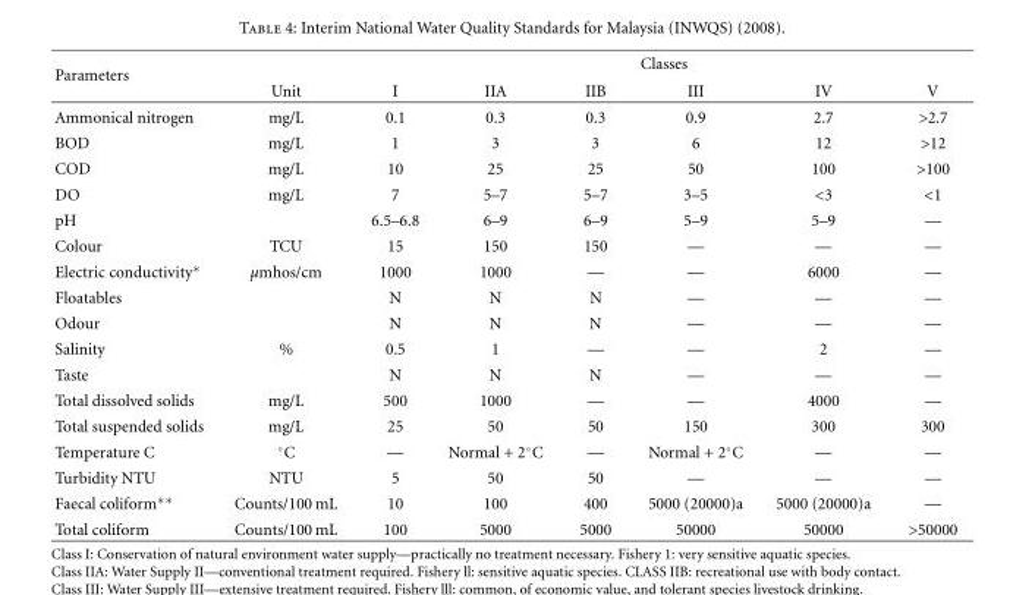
<table><thead><tr><td rowspan="2">Parameters</td><td rowspan="2">Unit</td><td colspan="6">Classes</td></tr><tr><td>I</td><td>IIA</td><td>IIB</td><td>III</td><td>IV</td><td>V</td></tr></thead><tbody><tr><td>Ammonical nitrogen</td><td>mg/L</td><td>0.1</td><td>0.3</td><td>0.3</td><td>0.9</td><td>2.7</td><td>&gt;2.7</td></tr><tr><td>BOD</td><td>mg/L</td><td>1</td><td>3</td><td>3</td><td>6</td><td>12</td><td>&gt;12</td></tr><tr><td>COD</td><td>mg/L</td><td>10</td><td>25</td><td>25</td><td>50</td><td>100</td><td>&gt;100</td></tr><tr><td>DO</td><td>mg/L</td><td>7</td><td>5–7</td><td>5–7</td><td>3–5</td><td>&lt;3</td><td>&lt;1</td></tr><tr><td>pH</td><td></td><td>6.5–6.8</td><td>6–9</td><td>6–9</td><td>5–9</td><td>5–9</td><td>—</td></tr><tr><td>Colour</td><td>TCU</td><td>15</td><td>150</td><td>150</td><td>—</td><td>—</td><td>—</td></tr><tr><td>Electric conductivity∗</td><td>µmhos/cm</td><td>1000</td><td>1000</td><td>—</td><td>—</td><td>6000</td><td>—</td></tr><tr><td>Floatables</td><td></td><td>N</td><td>N</td><td>N</td><td>—</td><td>—</td><td>—</td></tr><tr><td>Odour</td><td></td><td>N</td><td>N</td><td>N</td><td>—</td><td>—</td><td>—</td></tr><tr><td>Salinity</td><td>%</td><td>0.5</td><td>1</td><td>—</td><td>—</td><td>2</td><td>—</td></tr><tr><td>Taste</td><td></td><td>N</td><td>N</td><td>N</td><td>—</td><td>—</td><td>—</td></tr><tr><td>Total dissolved solids</td><td>mg/L</td><td>500</td><td>1000</td><td>—</td><td>—</td><td>4000</td><td>—</td></tr><tr><td>Total suspended solids</td><td>mg/L</td><td>25</td><td>50</td><td>50</td><td>150</td><td>300</td><td>300</td></tr><tr><td>Temperature C</td><td>◦C</td><td>—</td><td>Normal + 2◦C</td><td>—</td><td>Normal + 2◦C</td><td>—</td><td>—</td></tr><tr><td>Turbidity NTU</td><td>NTU</td><td>5</td><td>50</td><td>50</td><td>—</td><td>—</td><td>—</td></tr><tr><td>Faecal coliform∗∗</td><td>Counts/100 mL</td><td>10</td><td>100</td><td>400</td><td>5000 (20000)a</td><td>5000 (20000)a</td><td>—</td></tr><tr><td>Total coliform</td><td>Counts/100 mL</td><td>100</td><td>5000</td><td>5000</td><td>50000</td><td>50000</td><td>&gt;50000</td></tr></tbody></table>